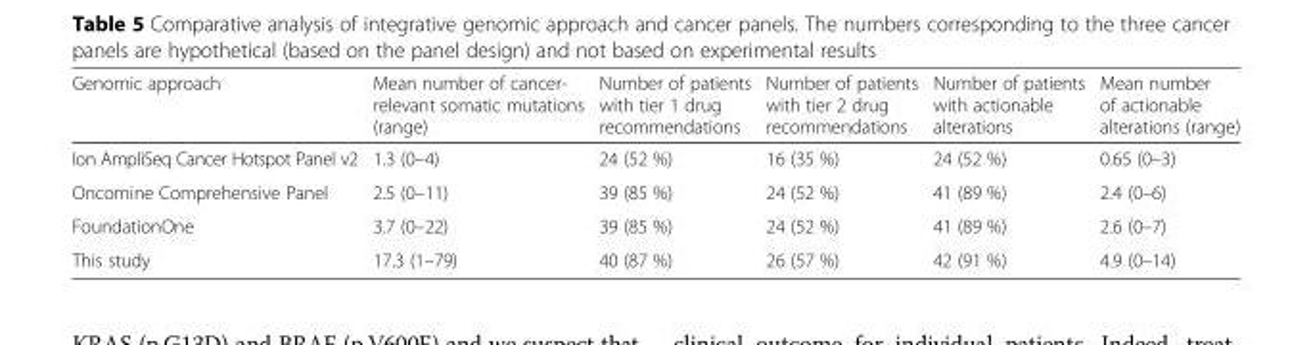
<table><thead><tr><td>Genomic approach</td><td>Mean number of cancer- relevant somatic mutations (range)</td><td>Number of patients with tier 1 drug recommendations</td><td>Number of patients with tier 2 drug recommendations</td><td>Number of patients with actionable alterations</td><td>Mean number of actionable alterations (range)</td></tr></thead><tbody><tr><td>Ion AmpliSeq Cancer Hotspot Panel v2</td><td>1.3 (0–4)</td><td>24 (52 %)</td><td>16 (35 %)</td><td>24 (52 %)</td><td>0.65 (0–3)</td></tr><tr><td>Oncomine Comprehensive Panel</td><td>2.5 (0–11)</td><td>39 (85 %)</td><td>24 (52 %)</td><td>41 (89 %)</td><td>2.4 (0–6)</td></tr><tr><td>FoundationOne</td><td>3.7 (0–22)</td><td>39 (85 %)</td><td>24 (52 %)</td><td>41 (89 %)</td><td>2.6 (0–7)</td></tr><tr><td>This study</td><td>17.3 (1–79)</td><td>40 (87 %)</td><td>26 (57 %)</td><td>42 (91 %)</td><td>4.9 (0–14)</td></tr></tbody></table>